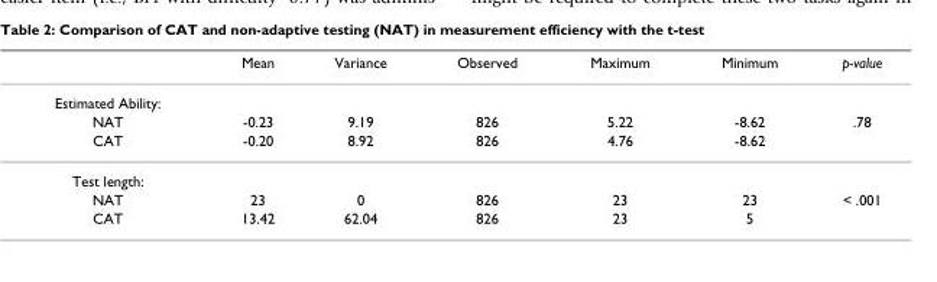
<table><thead><tr><td></td><td>Mean</td><td>Variance</td><td>Observed</td><td>Maximum</td><td>Minimum</td><td>p-value</td></tr></thead><tbody><tr><td colspan="7">Estimated Ability:</td></tr><tr><td>NAT</td><td>-0.23</td><td>9.19</td><td>826</td><td>5.22</td><td>-8.62</td><td>.78</td></tr><tr><td>CAT</td><td>-0.20</td><td>8.92</td><td>826</td><td>4.76</td><td>-8.62</td><td></td></tr><tr><td colspan="7">Test length:</td></tr><tr><td>NAT</td><td>23</td><td>0</td><td>826</td><td>23</td><td>23</td><td>&lt; .001</td></tr><tr><td>CAT</td><td>13.42</td><td>62.04</td><td>826</td><td>23</td><td>5</td><td></td></tr></tbody></table>